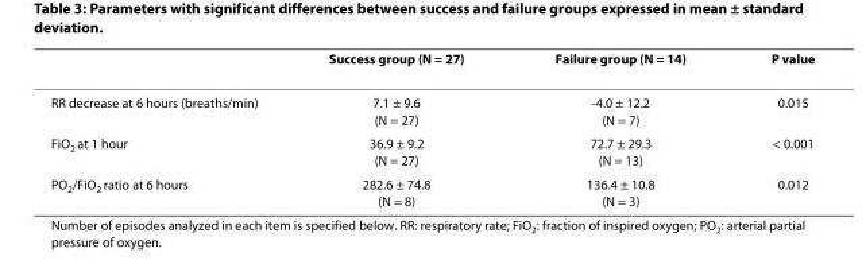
<table><thead><tr><td></td><td>Success group (N = 27)</td><td>Failure group (N = 14)</td><td>P value</td></tr></thead><tbody><tr><td>RR decrease at 6 hours (breaths/min)</td><td>7.1 ± 9.6 (N = 27)</td><td>-4.0 ± 12.2 (N = 7)</td><td>0.015</td></tr><tr><td>FiO<sub>2</sub> at 1 hour</td><td>36.9 ± 9.2 (N = 27)</td><td>72.7 ± 29.3 (N = 13)</td><td>&lt; 0.001</td></tr><tr><td>PO<sub>2</sub>/FiO<sub>2</sub> ratio at 6 hours</td><td>282.6 ± 74.8 (N = 8)</td><td>136.4 ± 10.8 (N = 3)</td><td>0.012</td></tr></tbody></table>